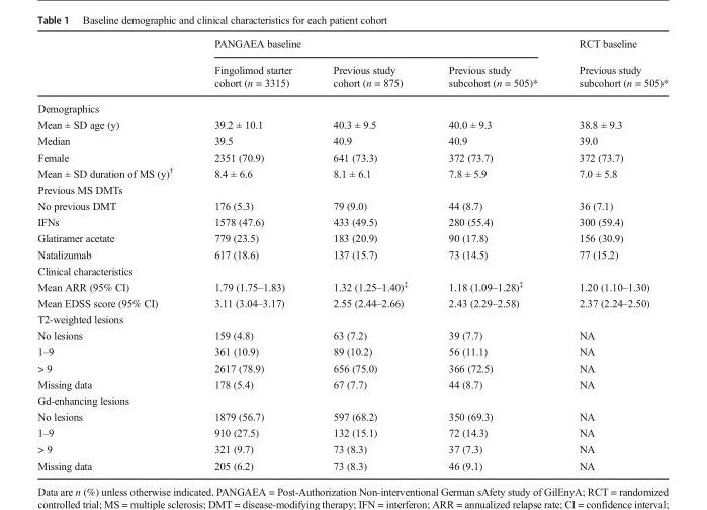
<table><thead><tr><td rowspan="2"></td><td colspan="3">PANGAEA baseline</td><td rowspan="2">RCT baseline Previous study subcohort (n = 505)*</td></tr><tr><td>Fingolimod starter cohort (n = 3315)</td><td>Previous study cohort (n = 875)</td><td>Previous study subcohort (n = 505)*</td></tr></thead><tbody><tr><td colspan="5">Demographics</td></tr><tr><td>Mean ± SD age (y)</td><td>39.2 ± 10.1</td><td>40.3 ± 9.5</td><td>40.0 ± 9.3</td><td>38.8 ± 9.3</td></tr><tr><td>Median</td><td>39.5</td><td>40.9</td><td>40.9</td><td>39.0</td></tr><tr><td>Female</td><td>2351 (70.9)</td><td>641 (73.3)</td><td>372 (73.7)</td><td>372 (73.7)</td></tr><tr><td>Mean ± SD duration of MS (y)<sup>†</sup></td><td>8.4 ± 6.6</td><td>8.1 ± 6.1</td><td>7.8 ± 5.9</td><td>7.0 ± 5.8</td></tr><tr><td colspan="5">Previous MS DMTs</td></tr><tr><td>No previous DMT</td><td>176 (5.3)</td><td>79 (9.0)</td><td>44 (8.7)</td><td>36 (7.1)</td></tr><tr><td>IFNs</td><td>1578 (47.6)</td><td>433 (49.5)</td><td>280 (55.4)</td><td>300 (59.4)</td></tr><tr><td>Glatiramer acetate</td><td>779 (23.5)</td><td>183 (20.9)</td><td>90 (17.8)</td><td>156 (30.9)</td></tr><tr><td>Natalizumab</td><td>617 (18.6)</td><td>137 (15.7)</td><td>73 (14.5)</td><td>77 (15.2)</td></tr><tr><td colspan="5">Clinical characteristics</td></tr><tr><td>Mean ARR (95% CI)</td><td>1.79 (1.75–1.83)</td><td>1.32 (1.25–1.40)<sup>‡</sup></td><td>1.18 (1.09–1.28)<sup>‡</sup></td><td>1.20 (1.10–1.30)</td></tr><tr><td>Mean EDSS score (95% CI)</td><td>3.11 (3.04–3.17)</td><td>2.55 (2.44–2.66)</td><td>2.43 (2.29–2.58)</td><td>2.37 (2.24–2.50)</td></tr><tr><td colspan="5">T2-weighted lesions</td></tr><tr><td>No lesions</td><td>159 (4.8)</td><td>63 (7.2)</td><td>39 (7.7)</td><td>NA</td></tr><tr><td>1–9</td><td>361 (10.9)</td><td>89 (10.2)</td><td>56 (11.1)</td><td>NA</td></tr><tr><td>&gt; 9</td><td>2617 (78.9)</td><td>656 (75.0)</td><td>366 (72.5)</td><td>NA</td></tr><tr><td>Missing data</td><td>178 (5.4)</td><td>67 (7.7)</td><td>44 (8.7)</td><td>NA</td></tr><tr><td colspan="5">Gd-enhancing lesions</td></tr><tr><td>No lesions</td><td>1879 (56.7)</td><td>597 (68.2)</td><td>350 (69.3)</td><td>NA</td></tr><tr><td>1–9</td><td>910 (27.5)</td><td>132 (15.1)</td><td>72 (14.3)</td><td>NA</td></tr><tr><td>&gt; 9</td><td>321 (9.7)</td><td>73 (8.3)</td><td>37 (7.3)</td><td>NA</td></tr><tr><td>Missing data</td><td>205 (6.2)</td><td>73 (8.3)</td><td>46 (9.1)</td><td>NA</td></tr></tbody></table>